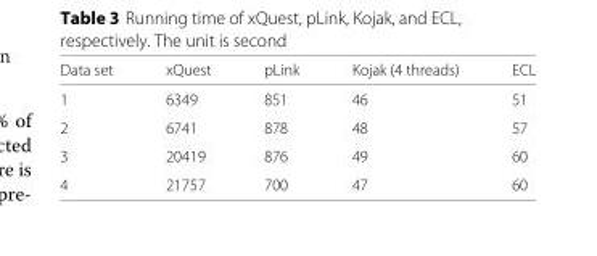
<table><thead><tr><td>Data set</td><td>xQuest</td><td>pLink</td><td>Kojak (4 threads)</td><td>ECL</td></tr></thead><tbody><tr><td>1</td><td>6349</td><td>851</td><td>46</td><td>51</td></tr><tr><td>2</td><td>6741</td><td>878</td><td>48</td><td>57</td></tr><tr><td>3</td><td>20419</td><td>876</td><td>49</td><td>60</td></tr><tr><td>4</td><td>21757</td><td>700</td><td>47</td><td>60</td></tr></tbody></table>